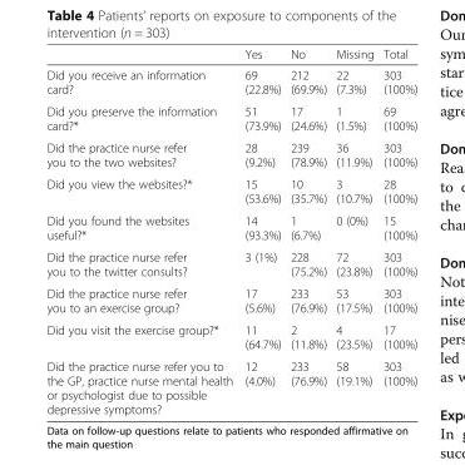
<table><thead><tr><td></td><td>Yes</td><td>No</td><td>Missing</td><td>Total</td></tr></thead><tbody><tr><td>Did you receive an information card?</td><td>69 (22.8%)</td><td>212 (69.9%)</td><td>22 (7.3%)</td><td>303 (100%)</td></tr><tr><td>Did you preserve the information card?*</td><td>51 (73.9%)</td><td>17 (24.6%)</td><td>1 (1.5%)</td><td>69 (100%)</td></tr><tr><td>Did the practice nurse refer you to the two websites?</td><td>28 (9.2%)</td><td>239 (78.9%)</td><td>36 (11.9%)</td><td>303 (100%)</td></tr><tr><td>Did you view the websites?*</td><td>15 (53.6%)</td><td>10 (35.7%)</td><td>3 (10.7%)</td><td>28 (100%)</td></tr><tr><td>Did you found the websites useful?*</td><td>14 (93.3%)</td><td>1 (6.7%)</td><td>0 (0%)</td><td>15 (100%)</td></tr><tr><td>Did the practice nurse refer you to the twitter consults?</td><td>3 (1%)</td><td>228 (75.2%)</td><td>72 (23.8%)</td><td>303 (100%)</td></tr><tr><td>Did the practice nurse refer you to an exercise group?</td><td>17 (5.6%)</td><td>233 (76.9%)</td><td>53 (17.5%)</td><td>303 (100%)</td></tr><tr><td>Did you visit the exercise group?*</td><td>11 (64.7%)</td><td>2 (11.8%)</td><td>4 (23.5%)</td><td>17 (100%)</td></tr><tr><td>Did the practice nurse refer you to the GP, practice nurse mental health or psychologist due to possible depressive symptoms?</td><td>12 (4.0%)</td><td>233 (76.9%)</td><td>58 (19.1%)</td><td>303 (100%)</td></tr></tbody></table>